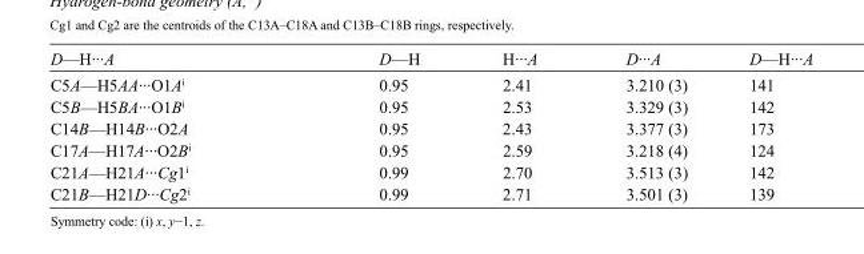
<table><tbody><tr><td>D—H···A</td><td>D—H</td><td>H···A</td><td>D···A</td><td>D—H···A</td></tr><tr><td>C5A—H5AA···O1A<sup>i</sup></td><td>0.95</td><td>2.41</td><td>3.210 (3)</td><td>141</td></tr><tr><td>C5B—H5BA···O1B<sup>i</sup></td><td>0.95</td><td>2.53</td><td>3.329 (3)</td><td>142</td></tr><tr><td>C14B—H14B···O2A</td><td>0.95</td><td>2.43</td><td>3.377 (3)</td><td>173</td></tr><tr><td>C17A—H17A···O2B<sup>i</sup></td><td>0.95</td><td>2.59</td><td>3.218 (4)</td><td>124</td></tr><tr><td>C21A—H21A···Cg1<sup>i</sup></td><td>0.99</td><td>2.70</td><td>3.513 (3)</td><td>142</td></tr><tr><td>C21B—H21D···Cg2<sup>i</sup></td><td>0.99</td><td>2.71</td><td>3.501 (3)</td><td>139</td></tr></tbody></table>